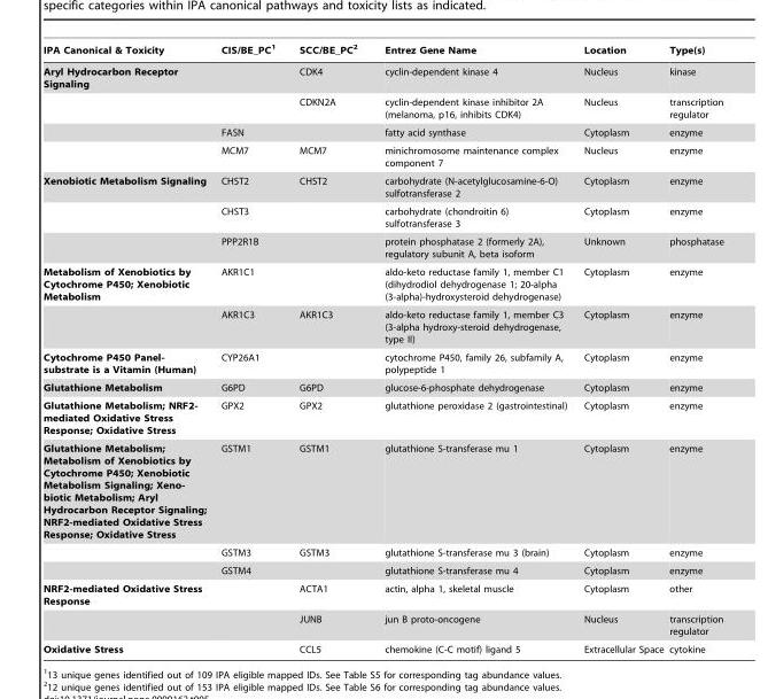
<table><thead><tr><td>IPA Canonical &amp; Toxicity</td><td>CIS/BE_PC<sup>1</sup></td><td>SCC/BE_PC<sup>2</sup></td><td>Entrez Gene Name</td><td>Location</td><td>Type(s)</td></tr></thead><tbody><tr><td rowspan="4">Aryl Hydrocarbon Receptor Signaling</td><td></td><td>CDK4</td><td>cyclin-dependent kinase 4</td><td>Nucleus</td><td>kinase</td></tr><tr><td></td><td>CDKN2A</td><td>cyclin-dependent kinase inhibitor 2A (melanoma, p16, inhibits CDK4)</td><td>Nucleus</td><td>transcription regulator</td></tr><tr><td>FASN</td><td></td><td>fatty acid synthase</td><td>Cytoplasm</td><td>enzyme</td></tr><tr><td>MCM7</td><td>MCM7</td><td>minichromosome maintenance complex component 7</td><td>Nucleus</td><td>enzyme</td></tr><tr><td rowspan="3">Xenobiotic Metabolism Signaling</td><td>CHST2</td><td>CHST2</td><td>carbohydrate (N-acetylglucosamine-6-O) sulfotransferase 2</td><td>Cytoplasm</td><td>enzyme</td></tr><tr><td>CHST3</td><td></td><td>carbohydrate (chondroitin 6) sulfotransferase 3</td><td>Cytoplasm</td><td>enzyme</td></tr><tr><td>PPP2R1B</td><td></td><td>protein phosphatase 2 (formerly 2A), regulatory subunit A, beta isoform</td><td>Unknown</td><td>phosphatase</td></tr><tr><td rowspan="2">Metabolism of Xenobiotics by Cytochrome P450; Xenobiotic Metabolism</td><td>AKR1C1</td><td></td><td>aldo-keto reductase family 1, member C1 (dihydrodiol dehydrogenase 1; 20-alpha (3-alpha)-hydroxysteroid dehydrogenase)</td><td>Cytoplasm</td><td>enzyme</td></tr><tr><td>AKR1C3</td><td>AKR1C3</td><td>aldo-keto reductase family 1, member C3 (3-alpha hydroxy-steroid dehydrogenase, type II)</td><td>Cytoplasm</td><td>enzyme</td></tr><tr><td>Cytochrome P450 Panel- substrate is a Vitamin (Human)</td><td>CYP26A1</td><td></td><td>cytochrome P450, family 26, subfamily A, polypeptide 1</td><td>Cytoplasm</td><td>enzyme</td></tr><tr><td>Glutathione Metabolism</td><td>G6PD</td><td>G6PD</td><td>glucose-6-phosphate dehydrogenase</td><td>Cytoplasm</td><td>enzyme</td></tr><tr><td>Glutathione Metabolism; NRF2- mediated Oxidative Stress Response; Oxidative Stress</td><td>GPX2</td><td>GPX2</td><td>glutathione peroxidase 2 (gastrointestinal)</td><td>Cytoplasm</td><td>enzyme</td></tr><tr><td rowspan="3">Glutathione Metabolism; Metabolism of Xenobiotics by Cytochrome P450; Xenobiotic Metabolism Signaling; Xeno- biotic Metabolism; Aryl Hydrocarbon Receptor Signaling; NRF2-mediated Oxidative Stress Response; Oxidative Stress</td><td>GSTM1</td><td>GSTM1</td><td>glutathione S-transferase mu 1</td><td>Cytoplasm</td><td>enzyme</td></tr><tr><td>GSTM3</td><td>GSTM3</td><td>glutathione S-transferase mu 3 (brain)</td><td>Cytoplasm</td><td>enzyme</td></tr><tr><td>GSTM4</td><td></td><td>glutathione S-transferase mu 4</td><td>Cytoplasm</td><td>enzyme</td></tr><tr><td rowspan="2">NRF2-mediated Oxidative Stress Response</td><td></td><td>ACTA1</td><td>actin, alpha 1, skeletal muscle</td><td>Cytoplasm</td><td>other</td></tr><tr><td></td><td>JUNB</td><td>jun B proto-oncogene</td><td>Nucleus</td><td>transcription regulator</td></tr><tr><td>Oxidative Stress</td><td></td><td>CCL5</td><td>chemokine (C-C motif) ligand 5</td><td>Extracellular Space</td><td>cytokine</td></tr></tbody></table>